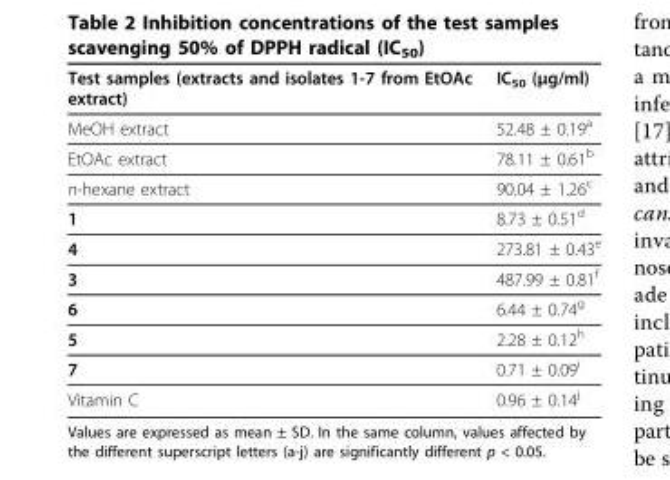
<table><thead><tr><td>Test samples (extracts and isolates 1-7 from EtOAc extract)</td><td>IC<sub>50</sub> (μg/ml)</td></tr></thead><tbody><tr><td>MeOH extract</td><td>52.48 ± 0.19<sup>a</sup></td></tr><tr><td>EtOAc extract</td><td>78.11 ± 0.61<sup>b</sup></td></tr><tr><td>n-hexane extract</td><td>90.04 ± 1.26<sup>c</sup></td></tr><tr><td>1</td><td>8.73 ± 0.51<sup>d</sup></td></tr><tr><td>4</td><td>273.81 ± 0.43<sup>e</sup></td></tr><tr><td>3</td><td>487.99 ± 0.81<sup>f</sup></td></tr><tr><td>6</td><td>6.44 ± 0.74<sup>g</sup></td></tr><tr><td>5</td><td>2.28 ± 0.12<sup>h</sup></td></tr><tr><td>7</td><td>0.71 ± 0.09<sup>i</sup></td></tr><tr><td>Vitamin C</td><td>0.96 ± 0.14<sup>j</sup></td></tr></tbody></table>